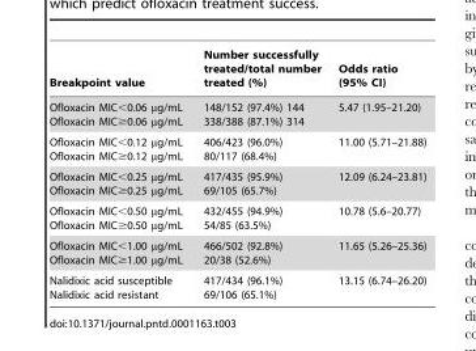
<table><thead><tr><td>Breakpoint value</td><td>Number successfully treated/total number treated (%)</td><td>Odds ratio (95% CI)</td></tr></thead><tbody><tr><td>Ofloxacin MIC&lt;0.06 µg/mL Ofloxacin MIC≥0.06 µg/mL</td><td>148/152 (97.4%) 144 338/388 (87.1%) 314</td><td>5.47 (1.95–21.20)</td></tr><tr><td>Ofloxacin MIC&lt;0.12 µg/mL Ofloxacin MIC≥0.12 µg/mL</td><td>406/423 (96.0%) 80/117 (68.4%)</td><td>11.00 (5.71–21.88)</td></tr><tr><td>Ofloxacin MIC&lt;0.25 µg/mL Ofloxacin MIC≥0.25 µg/mL</td><td>417/435 (95.9%) 69/105 (65.7%)</td><td>12.09 (6.24–23.81)</td></tr><tr><td>Ofloxacin MIC&lt;0.50 µg/mL Ofloxacin MIC≥0.50 µg/mL</td><td>432/455 (94.9%) 54/85 (63.5%)</td><td>10.78 (5.6–20.77)</td></tr><tr><td>Ofloxacin MIC&lt;1.00 µg/mL Ofloxacin MIC≥1.00 µg/mL</td><td>466/502 (92.8%) 20/38 (52.6%)</td><td>11.65 (5.26–25.36)</td></tr><tr><td>Nalidixic acid susceptible Nalidixic acid resistant</td><td>417/434 (96.1%) 69/106 (65.1%)</td><td>13.15 (6.74–26.20)</td></tr></tbody></table>